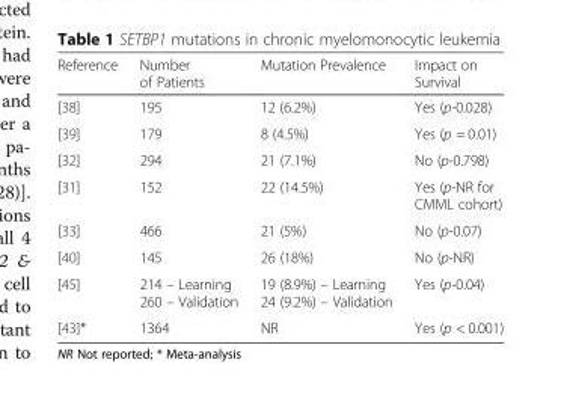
<table><thead><tr><td>Reference</td><td>Number of Patients</td><td>Mutation Prevalence</td><td>Impact on Survival</td></tr></thead><tbody><tr><td>[38]</td><td>195</td><td>12 (6.2%)</td><td>Yes (p-0.028)</td></tr><tr><td>[39]</td><td>179</td><td>8 (4.5%)</td><td>Yes (p = 0.01)</td></tr><tr><td>[32]</td><td>294</td><td>21 (7.1%)</td><td>No (p-0.798)</td></tr><tr><td>[31]</td><td>152</td><td>22 (14.5%)</td><td>Yes (p-NR for CMML cohort)</td></tr><tr><td>[33]</td><td>466</td><td>21 (5%)</td><td>No (p-0.07)</td></tr><tr><td>[40]</td><td>145</td><td>26 (18%)</td><td>No (p-NR)</td></tr><tr><td>[45]</td><td>214 – Learning 260 – Validation</td><td>19 (8.9%) – Learning 24 (9.2%) – Validation</td><td>Yes (p-0.04)</td></tr><tr><td>[43]*</td><td>1364</td><td>NR</td><td>Yes (p &lt; 0.001)</td></tr></tbody></table>